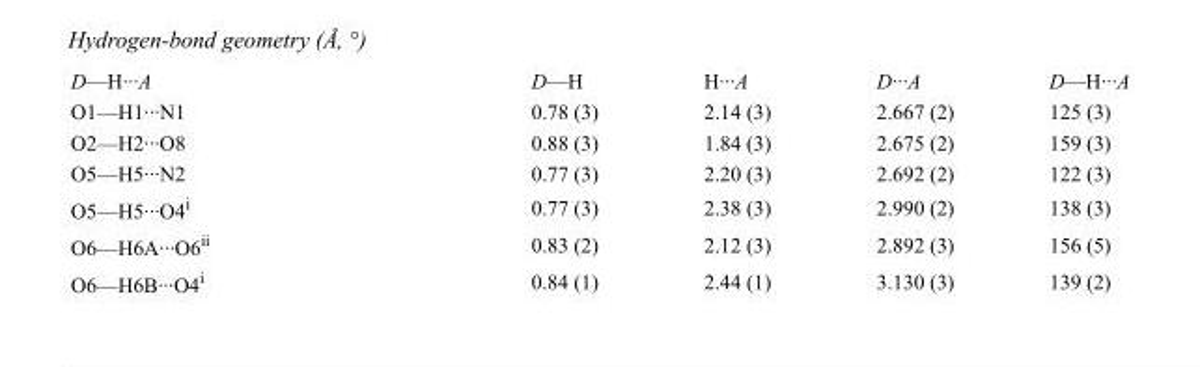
<table><tbody><tr><td>D—H···A</td><td>D—H</td><td>H···A</td><td>D···A</td><td>D—H···A</td></tr><tr><td>O1—H1···N1</td><td>0.78 (3)</td><td>2.14 (3)</td><td>2.667 (2)</td><td>125 (3)</td></tr><tr><td>O2—H2···O8</td><td>0.88 (3)</td><td>1.84 (3)</td><td>2.675 (2)</td><td>159 (3)</td></tr><tr><td>O5—H5···N2</td><td>0.77 (3)</td><td>2.20 (3)</td><td>2.692 (2)</td><td>122 (3)</td></tr><tr><td>O5—H5···O4<sup>i</sup></td><td>0.77 (3)</td><td>2.38 (3)</td><td>2.990 (2)</td><td>138 (3)</td></tr><tr><td>O6—H6A···O6<sup>ii</sup></td><td>0.83 (2)</td><td>2.12 (3)</td><td>2.892 (3)</td><td>156 (5)</td></tr><tr><td>O6—H6B···O4<sup>i</sup></td><td>0.84 (1)</td><td>2.44 (1)</td><td>3.130 (3)</td><td>139 (2)</td></tr></tbody></table>